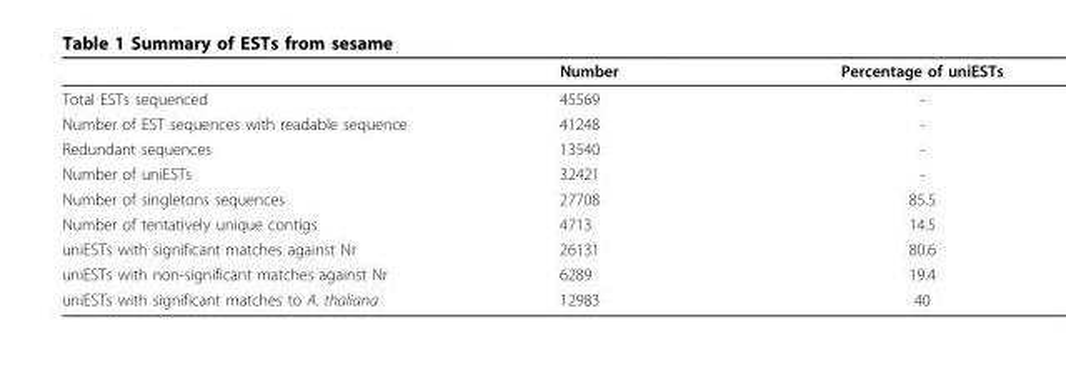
<table><thead><tr><td></td><td>Number</td><td>Percentage of uniESTs</td></tr></thead><tbody><tr><td>Total ESTs sequenced</td><td>45569</td><td>-</td></tr><tr><td>Number of EST sequences with readable sequence</td><td>41248</td><td>-</td></tr><tr><td>Redundant sequences</td><td>13540</td><td>-</td></tr><tr><td>Number of uniESTs</td><td>32421</td><td>-</td></tr><tr><td>Number of singletons sequences</td><td>27708</td><td>85.5</td></tr><tr><td>Number of tentatively unique contigs</td><td>4713</td><td>14.5</td></tr><tr><td>uniESTs with significant matches against Nr</td><td>26131</td><td>80.6</td></tr><tr><td>uniESTs with non-significant matches against Nr</td><td>6289</td><td>19.4</td></tr><tr><td>uniESTs with significant matches to A. thaliana</td><td>12983</td><td>40</td></tr></tbody></table>